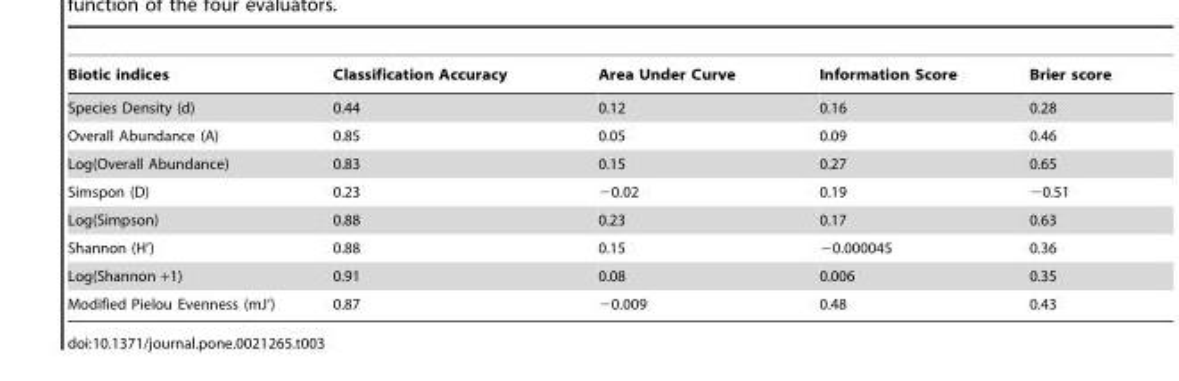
<table><thead><tr><td>Biotic indices</td><td>Classification Accuracy</td><td>Area Under Curve</td><td>Information Score</td><td>Brier score</td></tr></thead><tbody><tr><td>Species Density (d)</td><td>0.44</td><td>0.12</td><td>0.16</td><td>0.28</td></tr><tr><td>Overall Abundance (A)</td><td>0.85</td><td>0.05</td><td>0.09</td><td>0.46</td></tr><tr><td>Log(Overall Abundance)</td><td>0.83</td><td>0.15</td><td>0.27</td><td>0.65</td></tr><tr><td>Simspon (D)</td><td>0.23</td><td>−0.02</td><td>0.19</td><td>−0.51</td></tr><tr><td>Log(Simpson)</td><td>0.88</td><td>0.23</td><td>0.17</td><td>0.63</td></tr><tr><td>Shannon (H’)</td><td>0.88</td><td>0.15</td><td>−0.000045</td><td>0.36</td></tr><tr><td>Log(Shannon +1)</td><td>0.91</td><td>0.08</td><td>0.006</td><td>0.35</td></tr><tr><td>Modified Pielou Evenness (mJ’)</td><td>0.87</td><td>−0.009</td><td>0.48</td><td>0.43</td></tr></tbody></table>